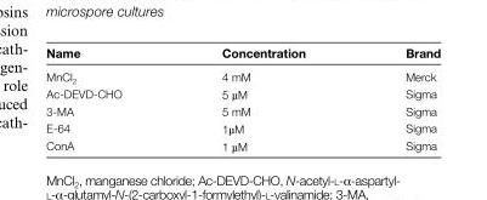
<table><thead><tr><td>Name</td><td>Concentration</td><td>Brand</td></tr></thead><tbody><tr><td>MnCl<sub>2</sub></td><td>4 mM</td><td>Merck</td></tr><tr><td>Ac-DEVD-CHO</td><td>5 µM</td><td>Sigma</td></tr><tr><td>3-MA</td><td>5 mM</td><td>Sigma</td></tr><tr><td>E-64</td><td>1µM</td><td>Sigma</td></tr><tr><td>ConA</td><td>1 µM</td><td>Sigma</td></tr></tbody></table>